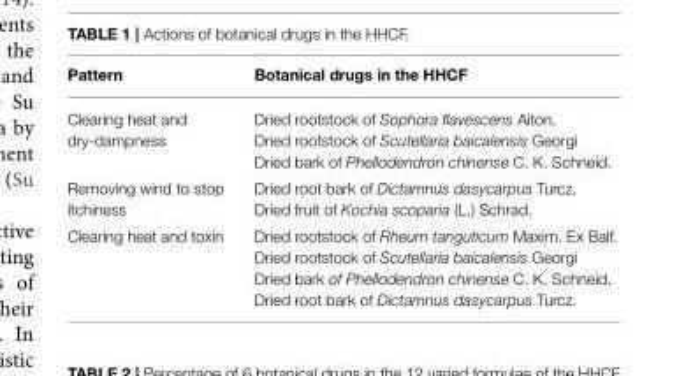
<table><thead><tr><td>Pattern</td><td>Botanical drugs in the HHCF</td></tr></thead><tbody><tr><td>Clearing heat and dry-dampness</td><td>Dried rootstock of Sophora flavescens Aiton, Dried rootstock of Scutellaria baicalensis Georgi Dried bark of Phellodendron chinense C. K. Schneid.</td></tr><tr><td>Removing wind to stop itchiness</td><td>Dried root bark of Dictamnus dasycarpus Turcz. Dried fruit of Kochia scoparia (L.) Schrad.</td></tr><tr><td>Clearing heat and toxin</td><td>Dried rootstock of Rheum tanguticum Maxim. Ex Balf. Dried rootstock of Scutellaria baicalensis Georgi Dried bark of Phellodendron chinense C. K. Schneid. Dried root bark of Dictamnus dasycarpus Turcz.</td></tr></tbody></table>